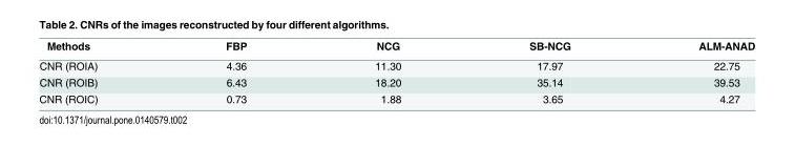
<table><thead><tr><td>Methods</td><td>FBP</td><td>NCG</td><td>SB-NCG</td><td>ALM-ANAD</td></tr></thead><tbody><tr><td>CNR (ROIA)</td><td>4.36</td><td>11.30</td><td>17.97</td><td>22.75</td></tr><tr><td>CNR (ROIB)</td><td>6.43</td><td>18.20</td><td>35.14</td><td>39.53</td></tr><tr><td>CNR (ROIC)</td><td>0.73</td><td>1.88</td><td>3.65</td><td>4.27</td></tr></tbody></table>